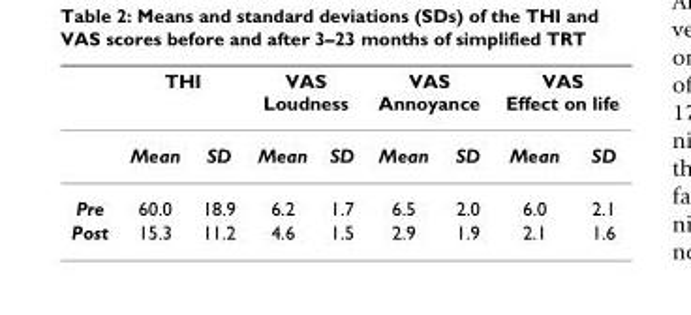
<table><thead><tr><td rowspan="2"></td><td colspan="2">THI</td><td colspan="2">VAS Loudness</td><td colspan="2">VAS Annoyance</td><td colspan="2">VAS Effect on life</td></tr><tr><td>Mean</td><td>SD</td><td>Mean</td><td>SD</td><td>Mean</td><td>SD</td><td>Mean</td><td>SD</td></tr></thead><tbody><tr><td>Pre</td><td>60.0</td><td>18.9</td><td>6.2</td><td>1.7</td><td>6.5</td><td>2.0</td><td>6.0</td><td>2.1</td></tr><tr><td>Post</td><td>15.3</td><td>11.2</td><td>4.6</td><td>1.5</td><td>2.9</td><td>1.9</td><td>2.1</td><td>1.6</td></tr></tbody></table>